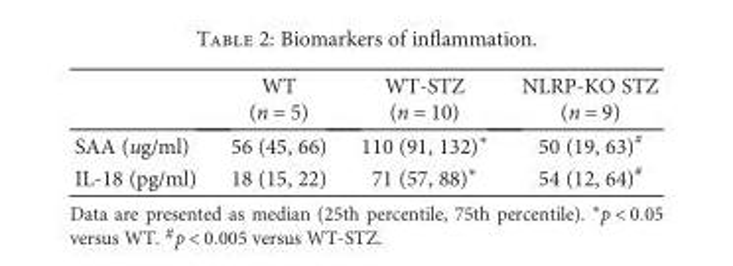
<table><thead><tr><td></td><td>WT (n = 5)</td><td>WT-STZ (n = 10)</td><td>NLRP-KO STZ (n = 9)</td></tr></thead><tbody><tr><td>SAA (ug/ml)</td><td>56 (45, 66)</td><td>110 (91, 132)∗</td><td>50 (19, 63)<sup>#</sup></td></tr><tr><td>IL-18 (pg/ml)</td><td>18 (15, 22)</td><td>71 (57, 88)∗</td><td>54 (12, 64)<sup>#</sup></td></tr></tbody></table>